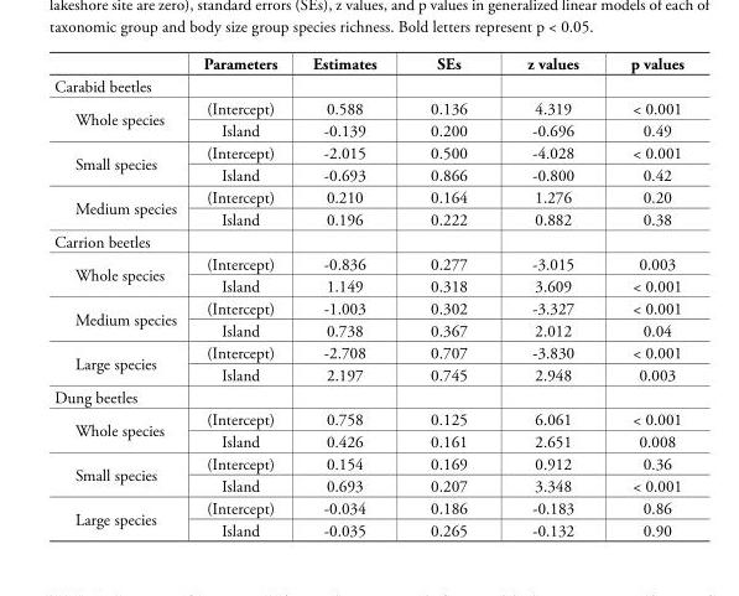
<table><thead><tr><td></td><td>Parameters</td><td>Estimates</td><td>SEs</td><td>z values</td><td>p values</td></tr></thead><tbody><tr><td colspan="6">Carabid beetles</td></tr><tr><td rowspan="2">Whole species</td><td>(Intercept)</td><td>0.588</td><td>0.136</td><td>4.319</td><td>&lt; 0.001</td></tr><tr><td>Island</td><td>-0.139</td><td>0.200</td><td>-0.696</td><td>0.49</td></tr><tr><td rowspan="2">Small species</td><td>(Intercept)</td><td>-2.015</td><td>0.500</td><td>-4.028</td><td>&lt; 0.001</td></tr><tr><td>Island</td><td>-0.693</td><td>0.866</td><td>-0.800</td><td>0.42</td></tr><tr><td rowspan="2">Medium species</td><td>(Intercept)</td><td>0.210</td><td>0.164</td><td>1.276</td><td>0.20</td></tr><tr><td>Island</td><td>0.196</td><td>0.222</td><td>0.882</td><td>0.38</td></tr><tr><td colspan="6">Carrion beetles</td></tr><tr><td rowspan="2">Whole species</td><td>(Intercept)</td><td>-0.836</td><td>0.277</td><td>-3.015</td><td>0.003</td></tr><tr><td>Island</td><td>1.149</td><td>0.318</td><td>3.609</td><td>&lt; 0.001</td></tr><tr><td rowspan="2">Medium species</td><td>(Intercept)</td><td>-1.003</td><td>0.302</td><td>-3.327</td><td>&lt; 0.001</td></tr><tr><td>Island</td><td>0.738</td><td>0.367</td><td>2.012</td><td>0.04</td></tr><tr><td rowspan="2">Large species</td><td>(Intercept)</td><td>-2.708</td><td>0.707</td><td>-3.830</td><td>&lt; 0.001</td></tr><tr><td>Island</td><td>2.197</td><td>0.745</td><td>2.948</td><td>0.003</td></tr><tr><td colspan="6">Dung beetles</td></tr><tr><td rowspan="2">Whole species</td><td>(Intercept)</td><td>0.758</td><td>0.125</td><td>6.061</td><td>&lt; 0.001</td></tr><tr><td>Island</td><td>0.426</td><td>0.161</td><td>2.651</td><td>0.008</td></tr><tr><td rowspan="2">Small species</td><td>(Intercept)</td><td>0.154</td><td>0.169</td><td>0.912</td><td>0.36</td></tr><tr><td>Island</td><td>0.693</td><td>0.207</td><td>3.348</td><td>&lt; 0.001</td></tr><tr><td rowspan="2">Large species</td><td>(Intercept)</td><td>-0.034</td><td>0.186</td><td>-0.183</td><td>0.86</td></tr><tr><td>Island</td><td>-0.035</td><td>0.265</td><td>-0.132</td><td>0.90</td></tr></tbody></table>